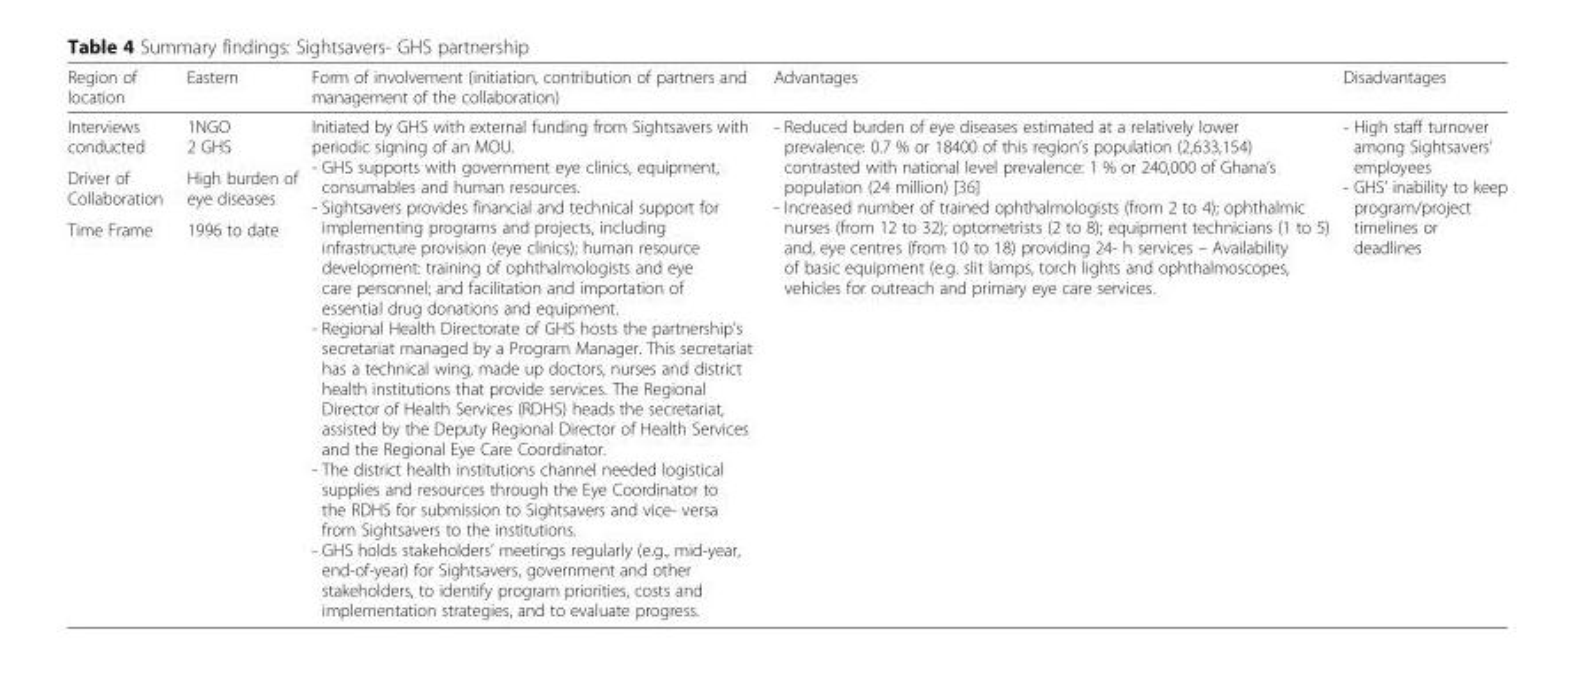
<table><thead><tr><td>Region of location</td><td>Eastern</td><td>Form of involvement (initiation, contribution of partners and management of the collaboration)</td><td>Advantages</td><td>Disadvantages</td></tr></thead><tbody><tr><td>Interviews conducted</td><td>1NGO 2 GHS</td><td rowspan="3">Initiated by GHS with external funding from Sightsavers with periodic signing of an MOU. - GHS supports with government eye clinics, equipment, consumables and human resources. - Sightsavers provides financial and technical support for implementing programs and projects, including infrastructure provision (eye clinics); human resource development: training of ophthalmologists and eye care personnel; and facilitation and importation of essential drug donations and equipment. - Regional Health Directorate of GHS hosts the partnership’s secretariat managed by a Program Manager. This secretariat has a technical wing, made up doctors, nurses and district health institutions that provide services. The Regional Director of Health Services (RDHS) heads the secretariat, assisted by the Deputy Regional Director of Health Services and the Regional Eye Care Coordinator. - The district health institutions channel needed logistical supplies and resources through the Eye Coordinator to the RDHS for submission to Sightsavers and vice- versa from Sightsavers to the institutions. - GHS holds stakeholders’ meetings regularly (e.g., mid-year, end-of-year) for Sightsavers, government and other stakeholders, to identify program priorities, costs and implementation strategies, and to evaluate progress.</td><td rowspan="3">- Reduced burden of eye diseases estimated at a relatively lower prevalence: 0.7 % or 18400 of this region’s population (2,633,154) contrasted with national level prevalence: 1 % or 240,000 of Ghana’s population (24 million) [36] - Increased number of trained ophthalmologists (from 2 to 4); ophthalmic nurses (from 12 to 32); optometrists (2 to 8); equipment technicians (1 to 5) and, eye centres (from 10 to 18) providing 24- h services – Availability of basic equipment (e.g. slit lamps, torch lights and ophthalmoscopes, vehicles for outreach and primary eye care services.</td><td rowspan="3">- High staff turnover among Sightsavers’ employees - GHS’ inability to keep program/project timelines or deadlines</td></tr><tr><td>Driver of Collaboration</td><td>High burden of eye diseases</td></tr><tr><td>Time Frame</td><td>1996 to date</td></tr></tbody></table>